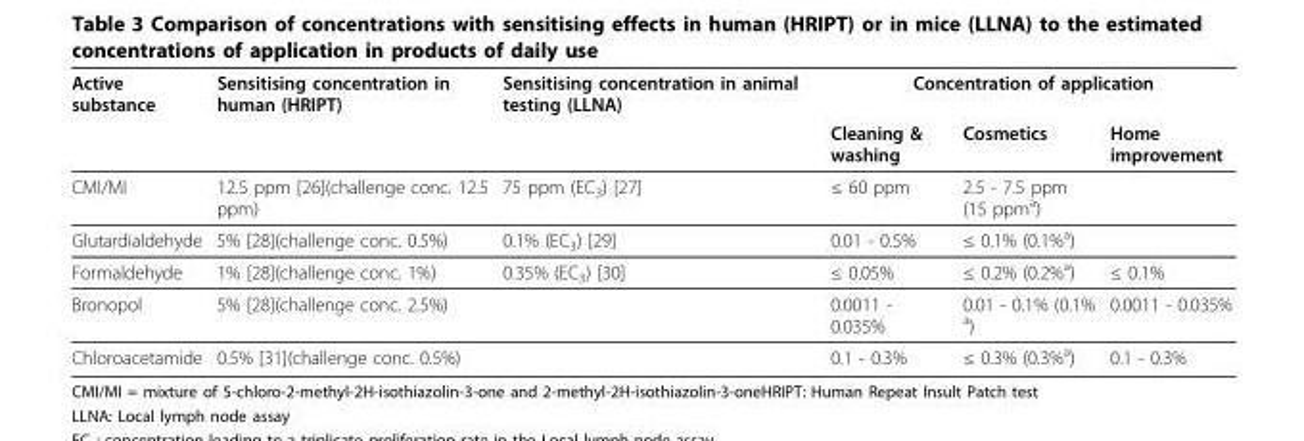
<table><thead><tr><td rowspan="2">Active substance</td><td rowspan="2">Sensitising concentration in human (HRIPT)</td><td rowspan="2">Sensitising concentration in animal testing (LLNA)</td><td colspan="3">Concentration of application</td></tr><tr><td>Cleaning &amp; washing</td><td>Cosmetics</td><td>Home improvement</td></tr></thead><tbody><tr><td>CMI/MI</td><td>12.5 ppm [26](challenge conc. 12.5 ppm)</td><td>75 ppm (EC<sub>3</sub>) [27]</td><td>≤ 60 ppm</td><td>2.5 - 7.5 ppm (15 ppm<sup>a</sup>)</td><td></td></tr><tr><td>Glutardialdehyde</td><td>5% [28](challenge conc. 0.5%)</td><td>0.1% (EC<sub>3</sub>) [29]</td><td>0.01 - 0.5%</td><td>≤ 0.1% (0.1%<sup>a</sup>)</td><td></td></tr><tr><td>Formaldehyde</td><td>1% [28](challenge conc. 1%)</td><td>0.35% (EC<sub>3</sub>) [30]</td><td>≤ 0.05%</td><td>≤ 0.2% (0.2%<sup>a</sup>)</td><td>≤ 0.1%</td></tr><tr><td>Bronopol</td><td>5% [28](challenge conc. 2.5%)</td><td></td><td>0.0011 - 0.035%</td><td>0.01 - 0.1% (0.1% <sup>a</sup>)</td><td>0.0011 - 0.035%</td></tr><tr><td>Chloroacetamide</td><td>0.5% [31](challenge conc. 0.5%)</td><td></td><td>0.1 - 0.3%</td><td>≤ 0.3% (0.3%<sup>a</sup>)</td><td>0.1 - 0.3%</td></tr></tbody></table>